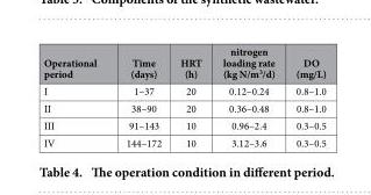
<table><thead><tr><td>Operational period</td><td>Time (days)</td><td>HRT (h)</td><td>nitrogen loading rate (kg N/m<sup>3</sup>/d)</td><td>DO (mg/L)</td></tr></thead><tbody><tr><td>I</td><td>1–37</td><td>20</td><td>0.12–0.24</td><td>0.8–1.0</td></tr><tr><td>II</td><td>38–90</td><td>20</td><td>0.36–0.48</td><td>0.8–1.0</td></tr><tr><td>III</td><td>91–143</td><td>10</td><td>0.96–2.4</td><td>0.3–0.5</td></tr><tr><td>IV</td><td>144–172</td><td>10</td><td>3.12–3.6</td><td>0.3–0.5</td></tr></tbody></table>